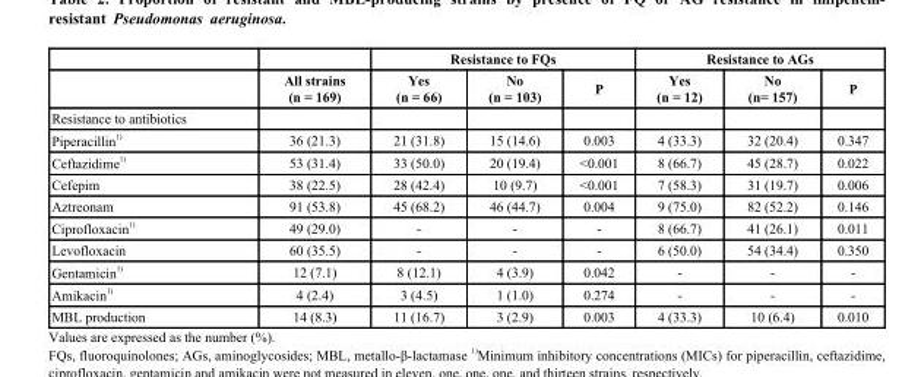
<table><thead><tr><td rowspan="2"></td><td rowspan="2">All strains (n = 169)</td><td colspan="3">Resistance to FQs</td><td colspan="3">Resistance to AGs</td></tr><tr><td>Yes (n = 66)</td><td>No (n = 103)</td><td>P</td><td>Yes (n = 12)</td><td>No (n= 157)</td><td>P</td></tr></thead><tbody><tr><td colspan="8">Resistance to antibiotics</td></tr><tr><td>Piperacillin <sup>1)</sup></td><td>36 (21.3)</td><td>21 (31.8)</td><td>15 (14.6)</td><td>0.003</td><td>4 (33.3)</td><td>32 (20.4)</td><td>0.347</td></tr><tr><td>Ceftazidime <sup>1)</sup></td><td>53 (31.4)</td><td>33 (50.0)</td><td>20 (19.4)</td><td>&lt;0.001</td><td>8 (66.7)</td><td>45 (28.7)</td><td>0.022</td></tr><tr><td>Cefepim</td><td>38 (22.5)</td><td>28 (42.4)</td><td>10 (9.7)</td><td>&lt;0.001</td><td>7 (58.3)</td><td>31 (19.7)</td><td>0.006</td></tr><tr><td>Aztreonam</td><td>91 (53.8)</td><td>45 (68.2)</td><td>46 (44.7)</td><td>0.004</td><td>9 (75.0)</td><td>82 (52.2)</td><td>0.146</td></tr><tr><td>Ciprofloxacin <sup>1)</sup></td><td>49 (29.0)</td><td>-</td><td>-</td><td>-</td><td>8 (66.7)</td><td>41 (26.1)</td><td>0.011</td></tr><tr><td>Levofloxacin</td><td>60 (35.5)</td><td>-</td><td>-</td><td>-</td><td>6 (50.0)</td><td>54 (34.4)</td><td>0.350</td></tr><tr><td>Gentamicin <sup>1)</sup></td><td>12 (7.1)</td><td>8 (12.1)</td><td>4 (3.9)</td><td>0.042</td><td>-</td><td>-</td><td>-</td></tr><tr><td>Amikacin <sup>1)</sup></td><td>4 (2.4)</td><td>3 (4.5)</td><td>1 (1.0)</td><td>0.274</td><td>-</td><td>-</td><td>-</td></tr><tr><td>MBL production</td><td>14 (8.3)</td><td>11 (16.7)</td><td>3 (2.9)</td><td>0.003</td><td>4 (33.3)</td><td>10 (6.4)</td><td>0.010</td></tr></tbody></table>